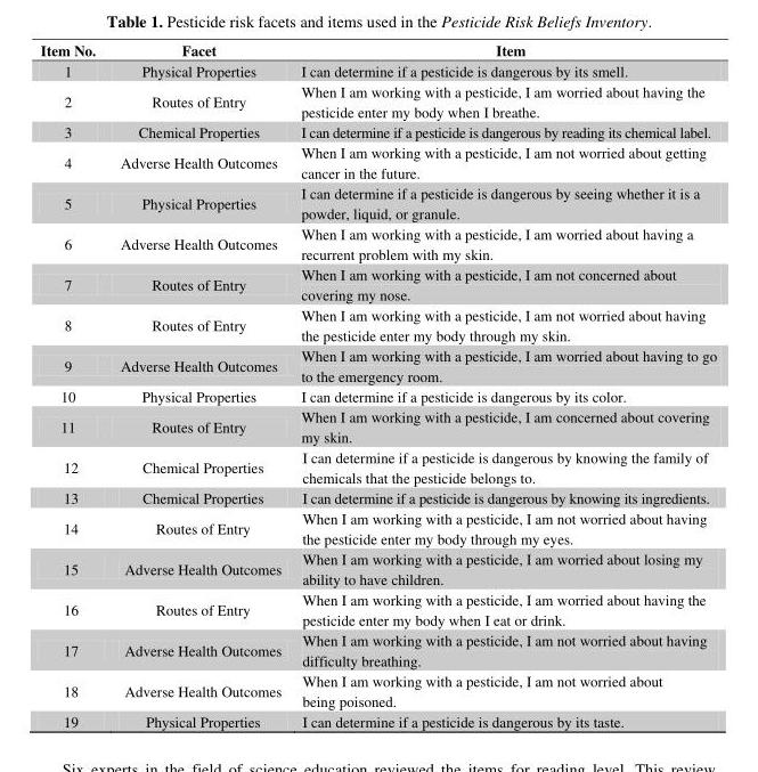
<table><thead><tr><td>Item No.</td><td>Facet</td><td>Item</td></tr></thead><tbody><tr><td>1</td><td>Physical Properties</td><td>I can determine if a pesticide is dangerous by its smell.</td></tr><tr><td>2</td><td>Routes of Entry</td><td>When I am working with a pesticide, I am worried about having the pesticide enter my body when I breathe.</td></tr><tr><td>3</td><td>Chemical Properties</td><td>I can determine if a pesticide is dangerous by reading its chemical label.</td></tr><tr><td>4</td><td>Adverse Health Outcomes</td><td>When I am working with a pesticide, I am not worried about getting cancer in the future.</td></tr><tr><td>5</td><td>Physical Properties</td><td>I can determine if a pesticide is dangerous by seeing whether it is a powder, liquid, or granule.</td></tr><tr><td>6</td><td>Adverse Health Outcomes</td><td>When I am working with a pesticide, I am worried about having a recurrent problem with my skin.</td></tr><tr><td>7</td><td>Routes of Entry</td><td>When I am working with a pesticide, I am not concerned about covering my nose.</td></tr><tr><td>8</td><td>Routes of Entry</td><td>When I am working with a pesticide, I am not worried about having the pesticide enter my body through my skin.</td></tr><tr><td>9</td><td>Adverse Health Outcomes</td><td>When I am working with a pesticide, I am worried about having to go to the emergency room.</td></tr><tr><td>10</td><td>Physical Properties</td><td>I can determine if a pesticide is dangerous by its color.</td></tr><tr><td>11</td><td>Routes of Entry</td><td>When I am working with a pesticide, I am concerned about covering my skin.</td></tr><tr><td>12</td><td>Chemical Properties</td><td>I can determine if a pesticide is dangerous by knowing the family of chemicals that the pesticide belongs to.</td></tr><tr><td>13</td><td>Chemical Properties</td><td>I can determine if a pesticide is dangerous by knowing its ingredients.</td></tr><tr><td>14</td><td>Routes of Entry</td><td>When I am working with a pesticide, I am not worried about having the pesticide enter my body through my eyes.</td></tr><tr><td>15</td><td>Adverse Health Outcomes</td><td>When I am working with a pesticide, I am worried about losing my ability to have children.</td></tr><tr><td>16</td><td>Routes of Entry</td><td>When I am working with a pesticide, I am worried about having the pesticide enter my body when I eat or drink.</td></tr><tr><td>17</td><td>Adverse Health Outcomes</td><td>When I am working with a pesticide, I am not worried about having difficulty breathing.</td></tr><tr><td>18</td><td>Adverse Health Outcomes</td><td>When I am working with a pesticide, I am not worried about being poisoned.</td></tr><tr><td>19</td><td>Physical Properties</td><td>I can determine if a pesticide is dangerous by its taste.</td></tr></tbody></table>